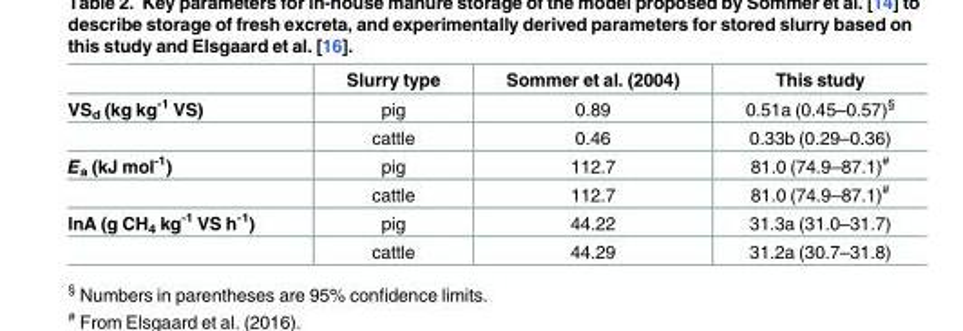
<table><thead><tr><td></td><td>Slurry type</td><td>Sommer et al. (2004)</td><td>This study</td></tr></thead><tbody><tr><td rowspan="2">VS<sub>d</sub> (kg kg<sup>-1</sup> VS)</td><td>pig</td><td>0.89</td><td>0.51a (0.45–0.57)<sup>§</sup></td></tr><tr><td>cattle</td><td>0.46</td><td>0.33b (0.29–0.36)</td></tr><tr><td rowspan="2">E<sub>a</sub> (kJ mol<sup>-1</sup>)</td><td>pig</td><td>112.7</td><td>81.0 (74.9–87.1)<sup>#</sup></td></tr><tr><td>cattle</td><td>112.7</td><td>81.0 (74.9–87.1)<sup>#</sup></td></tr><tr><td rowspan="2">lnA (g CH<sub>4</sub> kg<sup>-1</sup> VS h<sup>-1</sup>)</td><td>pig</td><td>44.22</td><td>31.3a (31.0–31.7)</td></tr><tr><td>cattle</td><td>44.29</td><td>31.2a (30.7–31.8)</td></tr></tbody></table>